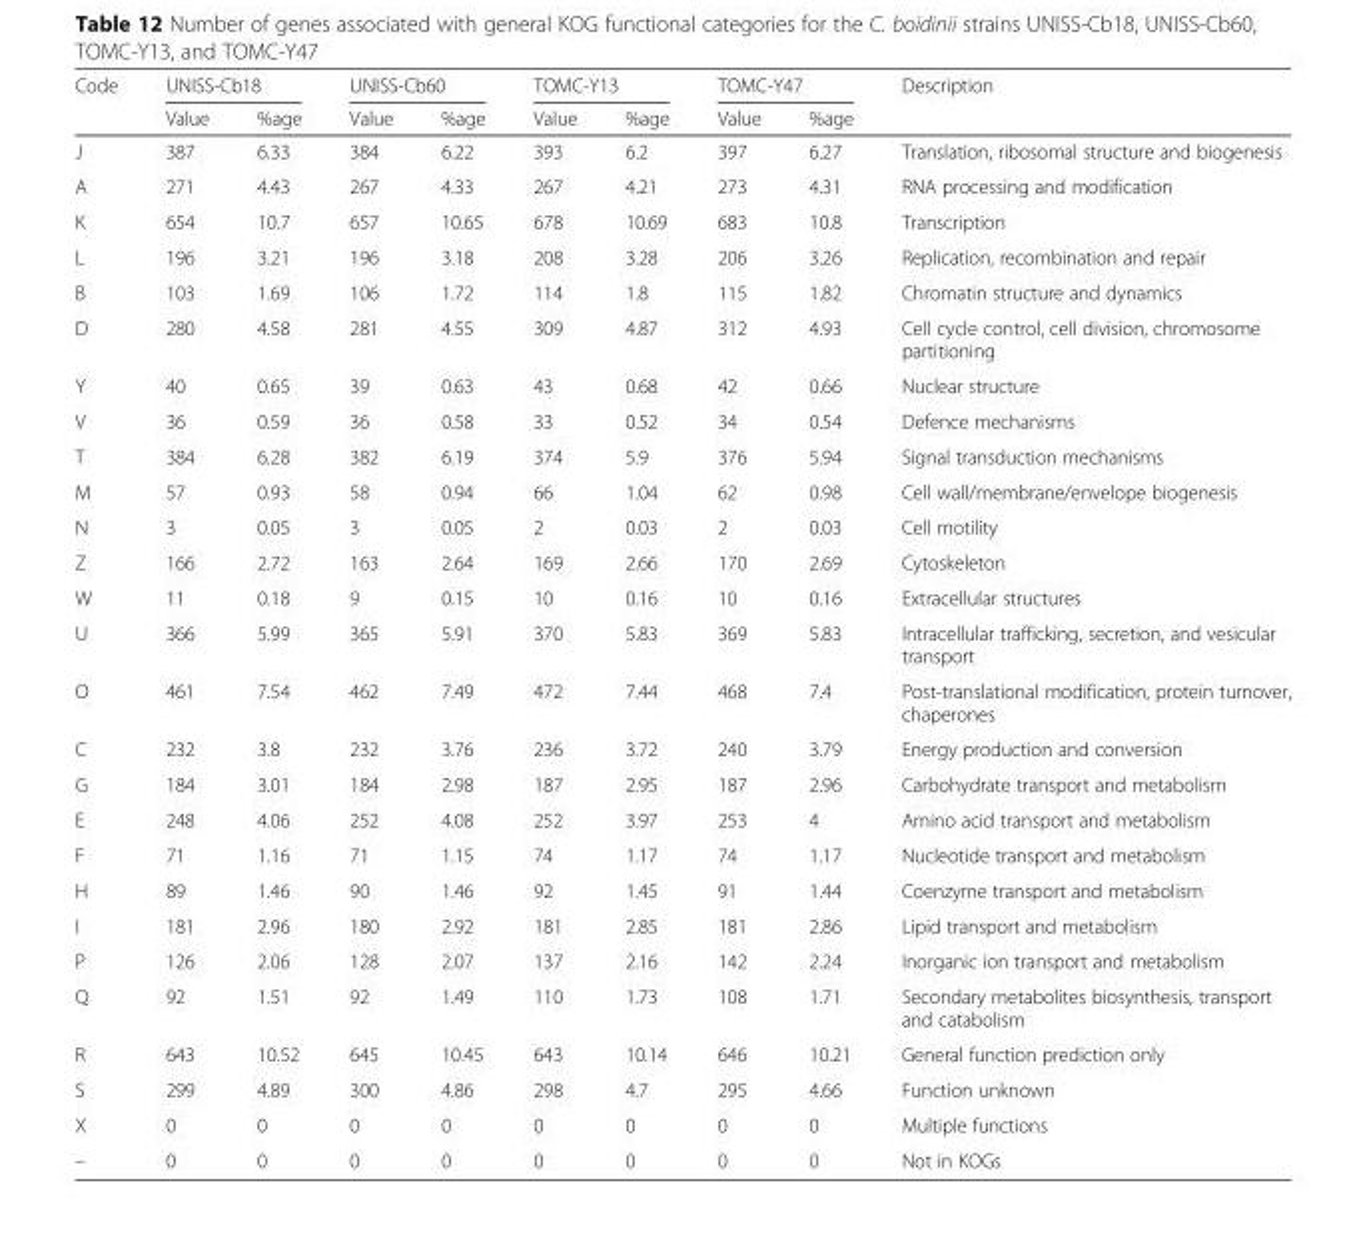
<table><thead><tr><td rowspan="2">Code</td><td colspan="2">UNISS-Cb18</td><td colspan="2">UNISS-Cb60</td><td colspan="2">TOMC-Y13</td><td colspan="2">TOMC-Y47</td><td rowspan="2">Description</td></tr><tr><td>Value</td><td>%age</td><td>Value</td><td>%age</td><td>Value</td><td>%age</td><td>Value</td><td>%age</td></tr></thead><tbody><tr><td>J</td><td>387</td><td>6.33</td><td>384</td><td>6.22</td><td>393</td><td>6.2</td><td>397</td><td>6.27</td><td>Translation, ribosomal structure and biogenesis</td></tr><tr><td>A</td><td>271</td><td>4.43</td><td>267</td><td>4.33</td><td>267</td><td>4.21</td><td>273</td><td>4.31</td><td>RNA processing and modification</td></tr><tr><td>K</td><td>654</td><td>10.7</td><td>657</td><td>10.65</td><td>678</td><td>10.69</td><td>683</td><td>10.8</td><td>Transcription</td></tr><tr><td>L</td><td>196</td><td>3.21</td><td>196</td><td>3.18</td><td>208</td><td>3.28</td><td>206</td><td>3.26</td><td>Replication, recombination and repair</td></tr><tr><td>B</td><td>103</td><td>1.69</td><td>106</td><td>1.72</td><td>114</td><td>1.8</td><td>115</td><td>1.82</td><td>Chromatin structure and dynamics</td></tr><tr><td>D</td><td>280</td><td>4.58</td><td>281</td><td>4.55</td><td>309</td><td>4.87</td><td>312</td><td>4.93</td><td>Cell cycle control, cell division, chromosome partitioning</td></tr><tr><td>Y</td><td>40</td><td>0.65</td><td>39</td><td>0.63</td><td>43</td><td>0.68</td><td>42</td><td>0.66</td><td>Nuclear structure</td></tr><tr><td>V</td><td>36</td><td>0.59</td><td>36</td><td>0.58</td><td>33</td><td>0.52</td><td>34</td><td>0.54</td><td>Defence mechanisms</td></tr><tr><td>T</td><td>384</td><td>6.28</td><td>382</td><td>6.19</td><td>374</td><td>5.9</td><td>376</td><td>5.94</td><td>Signal transduction mechanisms</td></tr><tr><td>M</td><td>57</td><td>0.93</td><td>58</td><td>0.94</td><td>66</td><td>1.04</td><td>62</td><td>0.98</td><td>Cell wall/membrane/envelope biogenesis</td></tr><tr><td>N</td><td>3</td><td>0.05</td><td>3</td><td>0.05</td><td>2</td><td>0.03</td><td>2</td><td>0.03</td><td>Cell motility</td></tr><tr><td>Z</td><td>166</td><td>2.72</td><td>163</td><td>2.64</td><td>169</td><td>2.66</td><td>170</td><td>2.69</td><td>Cytoskeleton</td></tr><tr><td>W</td><td>11</td><td>0.18</td><td>9</td><td>0.15</td><td>10</td><td>0.16</td><td>10</td><td>0.16</td><td>Extracellular structures</td></tr><tr><td>U</td><td>366</td><td>5.99</td><td>365</td><td>5.91</td><td>370</td><td>5.83</td><td>369</td><td>5.83</td><td>Intracellular trafficking, secretion, and vesicular transport</td></tr><tr><td>O</td><td>461</td><td>7.54</td><td>462</td><td>7.49</td><td>472</td><td>7.44</td><td>468</td><td>7.4</td><td>Post-translational modification, protein turnover, chaperones</td></tr><tr><td>C</td><td>232</td><td>3.8</td><td>232</td><td>3.76</td><td>236</td><td>3.72</td><td>240</td><td>3.79</td><td>Energy production and conversion</td></tr><tr><td>G</td><td>184</td><td>3.01</td><td>184</td><td>2.98</td><td>187</td><td>2.95</td><td>187</td><td>2.96</td><td>Carbohydrate transport and metabolism</td></tr><tr><td>E</td><td>248</td><td>4.06</td><td>252</td><td>4.08</td><td>252</td><td>3.97</td><td>253</td><td>4</td><td>Amino acid transport and metabolism</td></tr><tr><td>F</td><td>71</td><td>1.16</td><td>71</td><td>1.15</td><td>74</td><td>1.17</td><td>74</td><td>1.17</td><td>Nucleotide transport and metabolism</td></tr><tr><td>H</td><td>89</td><td>1.46</td><td>90</td><td>1.46</td><td>92</td><td>1.45</td><td>91</td><td>1.44</td><td>Coenzyme transport and metabolism</td></tr><tr><td>I</td><td>181</td><td>2.96</td><td>180</td><td>2.92</td><td>181</td><td>2.85</td><td>181</td><td>2.86</td><td>Lipid transport and metabolism</td></tr><tr><td>P</td><td>126</td><td>2.06</td><td>128</td><td>2.07</td><td>137</td><td>2.16</td><td>142</td><td>2.24</td><td>Inorganic ion transport and metabolism</td></tr><tr><td>Q</td><td>92</td><td>1.51</td><td>92</td><td>1.49</td><td>110</td><td>1.73</td><td>108</td><td>1.71</td><td>Secondary metabolites biosynthesis, transport and catabolism</td></tr><tr><td>R</td><td>643</td><td>10.52</td><td>645</td><td>10.45</td><td>643</td><td>10.14</td><td>646</td><td>10.21</td><td>General function prediction only</td></tr><tr><td>S</td><td>299</td><td>4.89</td><td>300</td><td>4.86</td><td>298</td><td>4.7</td><td>295</td><td>4.66</td><td>Function unknown</td></tr><tr><td>X</td><td>0</td><td>0</td><td>0</td><td>0</td><td>0</td><td>0</td><td>0</td><td>0</td><td>Multiple functions</td></tr><tr><td>–</td><td>0</td><td>0</td><td>0</td><td>0</td><td>0</td><td>0</td><td>0</td><td>0</td><td>Not in KOGs</td></tr></tbody></table>